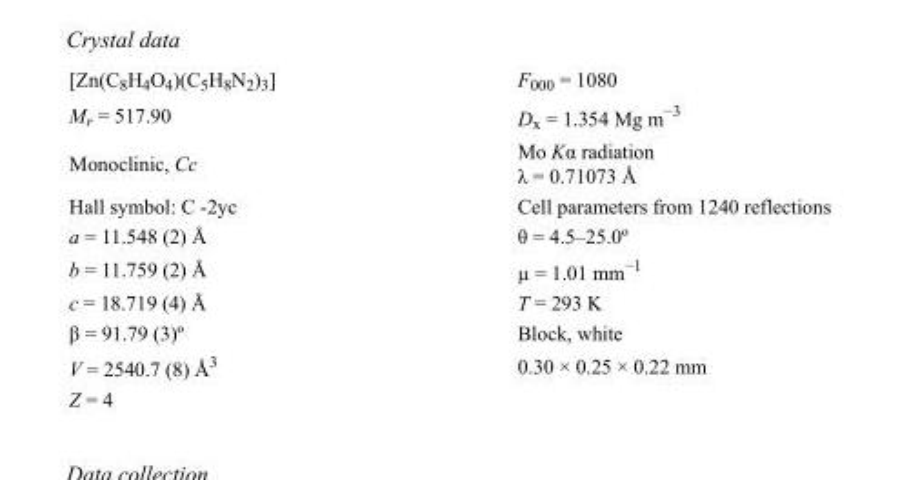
<table><tbody><tr><td>[Zn(C<sub>8</sub>H<sub>4</sub>O<sub>4</sub>)(C<sub>5</sub>H<sub>8</sub>N<sub>2</sub>)<sub>3</sub>]</td><td>F000 = 1080</td></tr><tr><td>M<sub>r</sub> = 517.90</td><td>D<sub>x</sub> = 1.354 Mg m<sup>−3</sup></td></tr><tr><td>Monoclinic, Cc</td><td>Mo Kα radiation λ = 0.71073 Å</td></tr><tr><td>Hall symbol: C -2yc</td><td>Cell parameters from 1240 reflections</td></tr><tr><td>a = 11.548 (2) Å</td><td>θ = 4.5–25.0º</td></tr><tr><td>b = 11.759 (2) Å</td><td>µ = 1.01 mm<sup>−1</sup></td></tr><tr><td>c = 18.719 (4) Å</td><td>T = 293 K</td></tr><tr><td>β = 91.79 (3)º</td><td>Block, white</td></tr><tr><td>V = 2540.7 (8) Å<sup>3</sup></td><td>0.30 × 0.25 × 0.22 mm</td></tr><tr><td>Z = 4</td><td></td></tr></tbody></table>